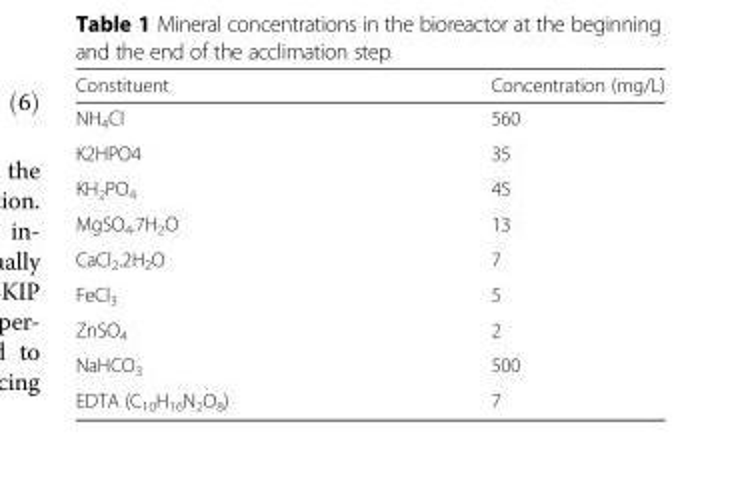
<table><thead><tr><td>Constituent</td><td>Concentration (mg/L)</td></tr></thead><tbody><tr><td>NH<sub>4</sub>Cl</td><td>560</td></tr><tr><td>K2HPO4</td><td>35</td></tr><tr><td>KH<sub>2</sub>PO<sub>4</sub></td><td>45</td></tr><tr><td>MgSO<sub>4</sub>.7H<sub>2</sub>O</td><td>13</td></tr><tr><td>CaCl<sub>2</sub>.2H<sub>2</sub>O</td><td>7</td></tr><tr><td>FeCl<sub>3</sub></td><td>5</td></tr><tr><td>ZnSO<sub>4</sub></td><td>2</td></tr><tr><td>NaHCO<sub>3</sub></td><td>500</td></tr><tr><td>EDTA (C<sub>10</sub>H<sub>16</sub>N<sub>2</sub>O<sub>8</sub>)</td><td>7</td></tr></tbody></table>